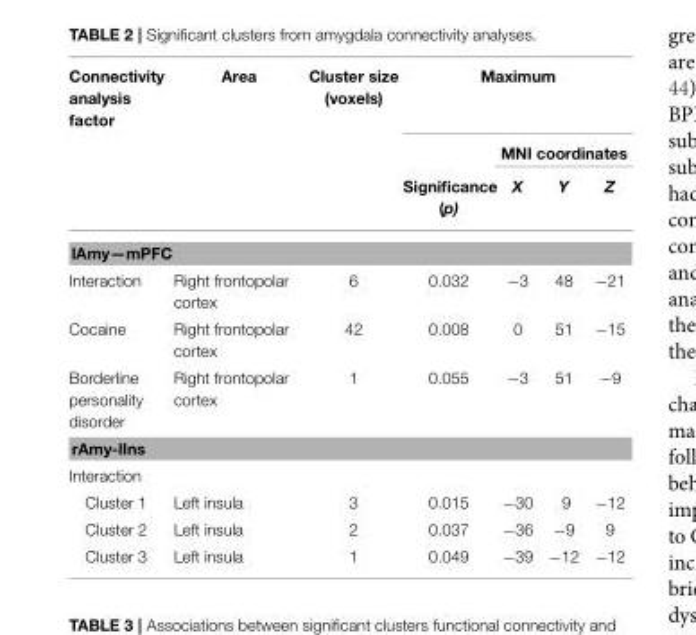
<table><thead><tr><td rowspan="3">Connectivity analysis factor</td><td rowspan="3">Area</td><td rowspan="3">Cluster size (voxels)</td><td colspan="4">Maximum</td></tr><tr><td rowspan="2">Significance (p)</td><td colspan="3">MNI coordinates</td></tr><tr><td>X</td><td>Y</td><td>Z</td></tr></thead><tbody><tr><td colspan="7">lAmy—mPFC</td></tr><tr><td>Interaction</td><td>Right frontopolar cortex</td><td>6</td><td>0.032</td><td>−3</td><td>48</td><td>−21</td></tr><tr><td>Cocaine</td><td>Right frontopolar cortex</td><td>42</td><td>0.008</td><td>0</td><td>51</td><td>−15</td></tr><tr><td>Borderline personality disorder</td><td>Right frontopolar cortex</td><td>1</td><td>0.055</td><td>−3</td><td>51</td><td>−9</td></tr><tr><td colspan="7">rAmy-lIns</td></tr><tr><td colspan="7">Interaction</td></tr><tr><td>Cluster 1</td><td>Left insula</td><td>3</td><td>0.015</td><td>−30</td><td>9</td><td>−12</td></tr><tr><td>Cluster 2</td><td>Left insula</td><td>2</td><td>0.037</td><td>−36</td><td>−9</td><td>9</td></tr><tr><td>Cluster 3</td><td>Left insula</td><td>1</td><td>0.049</td><td>−39</td><td>−12</td><td>−12</td></tr></tbody></table>